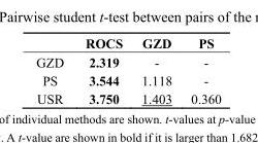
<table><thead><tr><td></td><td>ROCS</td><td>GZD</td><td>PS</td></tr></thead><tbody><tr><td>GZD</td><td>2.319</td><td>-</td><td>-</td></tr><tr><td>PS</td><td>3.544</td><td>1.118</td><td>-</td></tr><tr><td>USR</td><td>3.750</td><td>1.403</td><td>0.360</td></tr></tbody></table>